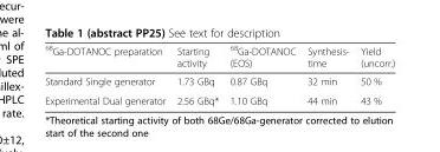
<table><thead><tr><td><sup>68</sup>Ga-DOTANOC preparation</td><td>Starting activity</td><td><sup>68</sup>Ga-DOTANOC (EOS)</td><td>Synthesis- time</td><td>Yield (uncorr.)</td></tr></thead><tbody><tr><td>Standard Single generator</td><td>1.73 GBq</td><td>0.87 GBq</td><td>32 min</td><td>50 %</td></tr><tr><td>Experimental Dual generator</td><td>2.56 GBq*</td><td>1.10 GBq</td><td>44 min</td><td>43 %</td></tr></tbody></table>